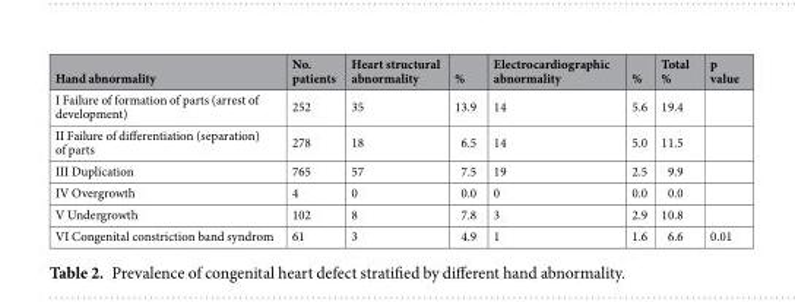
<table><thead><tr><td>Hand abnormality</td><td>No. patients</td><td>Heart structural abnormality</td><td>%</td><td>Electrocardiographic abnormality</td><td>%</td><td>Total %</td><td>p value</td></tr></thead><tbody><tr><td>I Failure of formation of parts (arrest of development)</td><td>252</td><td>35</td><td>13.9</td><td>14</td><td>5.6</td><td>19.4</td><td></td></tr><tr><td>II Failure of differentiation (separation) of parts</td><td>278</td><td>18</td><td>6.5</td><td>14</td><td>5.0</td><td>11.5</td><td></td></tr><tr><td>III Duplication</td><td>765</td><td>57</td><td>7.5</td><td>19</td><td>2.5</td><td>9.9</td><td></td></tr><tr><td>IV Overgrowth</td><td>4</td><td>0</td><td>0.0</td><td>0</td><td>0.0</td><td>0.0</td><td></td></tr><tr><td>V Undergrowth</td><td>102</td><td>8</td><td>7.8</td><td>3</td><td>2.9</td><td>10.8</td><td></td></tr><tr><td>VI Congenital constriction band syndrom</td><td>61</td><td>3</td><td>4.9</td><td>1</td><td>1.6</td><td>6.6</td><td>0.01</td></tr></tbody></table>